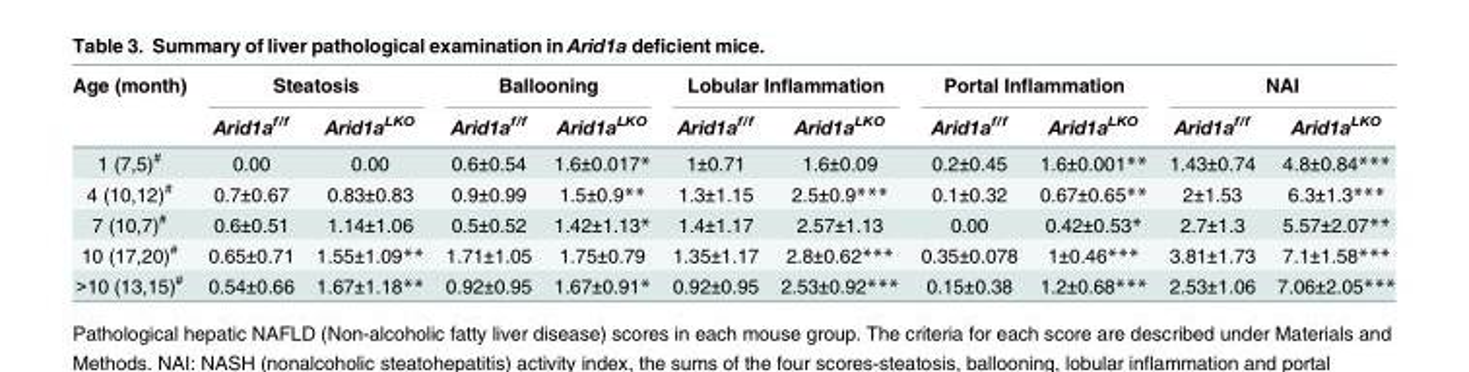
<table><thead><tr><td rowspan="2">Age (month)</td><td colspan="2">Steatosis</td><td colspan="2">Ballooning</td><td colspan="2">Lobular Inflammation</td><td colspan="2">Portal Inflammation</td><td colspan="2">NAI</td></tr><tr><td>Arid1a<sup>f/f</sup></td><td>Arid1a<sup>LKO</sup></td><td>Arid1a<sup>f/f</sup></td><td>Arid1a<sup>LKO</sup></td><td>Arid1a<sup>f/f</sup></td><td>Arid1a<sup>LKO</sup></td><td>Arid1a<sup>f/f</sup></td><td>Arid1a<sup>LKO</sup></td><td>Arid1a<sup>f/f</sup></td><td>Arid1a<sup>LKO</sup></td></tr></thead><tbody><tr><td>1 (7,5)<sup>#</sup></td><td>0.00</td><td>0.00</td><td>0.6±0.54</td><td>1.6±0.017*</td><td>1±0.71</td><td>1.6±0.09</td><td>0.2±0.45</td><td>1.6±0.001**</td><td>1.43±0.74</td><td>4.8±0.84***</td></tr><tr><td>4 (10,12)<sup>#</sup></td><td>0.7±0.67</td><td>0.83±0.83</td><td>0.9±0.99</td><td>1.5±0.9**</td><td>1.3±1.15</td><td>2.5±0.9***</td><td>0.1±0.32</td><td>0.67±0.65**</td><td>2±1.53</td><td>6.3±1.3***</td></tr><tr><td>7 (10,7)<sup>#</sup></td><td>0.6±0.51</td><td>1.14±1.06</td><td>0.5±0.52</td><td>1.42±1.13*</td><td>1.4±1.17</td><td>2.57±1.13</td><td>0.00</td><td>0.42±0.53*</td><td>2.7±1.3</td><td>5.57±2.07**</td></tr><tr><td>10 (17,20)<sup>#</sup></td><td>0.65±0.71</td><td>1.55±1.09**</td><td>1.71±1.05</td><td>1.75±0.79</td><td>1.35±1.17</td><td>2.8±0.62***</td><td>0.35±0.078</td><td>1±0.46***</td><td>3.81±1.73</td><td>7.1±1.58***</td></tr><tr><td>&gt;10 (13,15)<sup>#</sup></td><td>0.54±0.66</td><td>1.67±1.18**</td><td>0.92±0.95</td><td>1.67±0.91*</td><td>0.92±0.95</td><td>2.53±0.92***</td><td>0.15±0.38</td><td>1.2±0.68***</td><td>2.53±1.06</td><td>7.06±2.05***</td></tr></tbody></table>